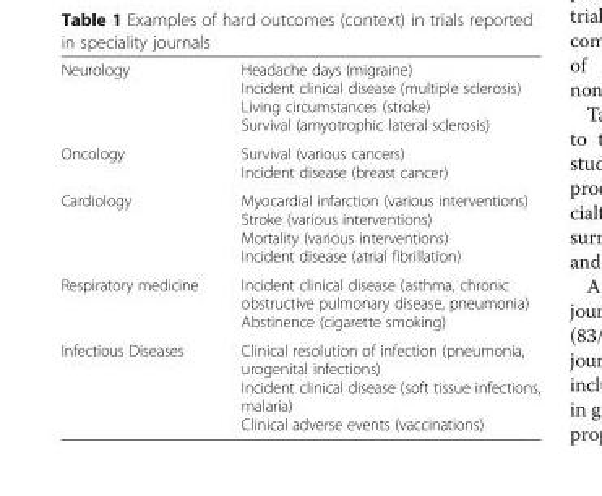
<table><tbody><tr><td>Neurology</td><td>Headache days (migraine) Incident clinical disease (multiple sclerosis) Living circumstances (stroke) Survival (amyotrophic lateral sclerosis)</td></tr><tr><td>Oncology</td><td>Survival (various cancers) Incident disease (breast cancer)</td></tr><tr><td>Cardiology</td><td>Myocardial infarction (various interventions) Stroke (various interventions) Mortality (various interventions) Incident disease (atrial fibrillation)</td></tr><tr><td>Respiratory medicine</td><td>Incident clinical disease (asthma, chronic obstructive pulmonary disease, pneumonia) Abstinence (cigarette smoking)</td></tr><tr><td>Infectious Diseases</td><td>Clinical resolution of infection (pneumonia, urogenital infections) Incident clinical disease (soft tissue infections, malaria) Clinical adverse events (vaccinations)</td></tr></tbody></table>